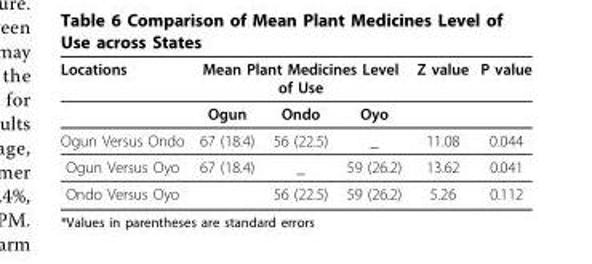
<table><thead><tr><td rowspan="2">Locations</td><td colspan="3">Mean Plant Medicines Level of Use</td><td rowspan="2">Z value</td><td rowspan="2">P value</td></tr><tr><td>Ogun</td><td>Ondo</td><td>Oyo</td></tr></thead><tbody><tr><td>Ogun Versus Ondo</td><td>67 (18.4)</td><td>56 (22.5)</td><td>_</td><td>11.08</td><td>0.044</td></tr><tr><td>Ogun Versus Oyo</td><td>67 (18.4)</td><td>_</td><td>59 (26.2)</td><td>13.62</td><td>0.041</td></tr><tr><td>Ondo Versus Oyo</td><td></td><td>56 (22.5)</td><td>59 (26.2)</td><td>5.26</td><td>0.112</td></tr></tbody></table>